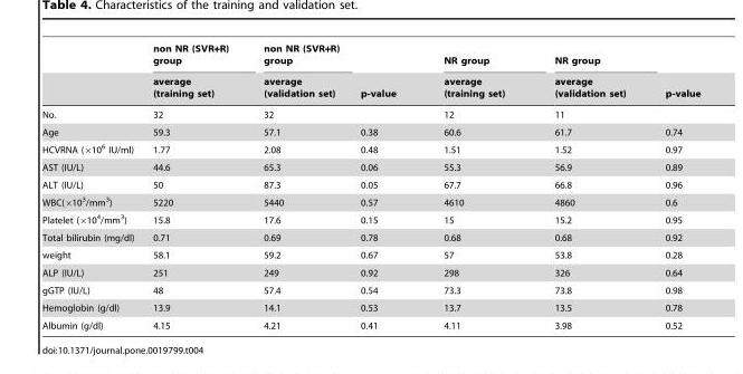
<table><thead><tr><td rowspan="2"></td><td rowspan="2">non NR (SVR+R) group average (training set)</td><td rowspan="2">non NR (SVR+R) group average (validation set)</td><td rowspan="2">p-value</td><td rowspan="2">NR group average (training set)</td><td rowspan="2">NR group average (validation set)</td><td rowspan="2">p-value</td></tr><tr></tr></thead><tbody><tr><td>No.</td><td>32</td><td>32</td><td></td><td>12</td><td>11</td><td></td></tr><tr><td>Age</td><td>59.3</td><td>57.1</td><td>0.38</td><td>60.6</td><td>61.7</td><td>0.74</td></tr><tr><td>HCVRNA (×10<sup>6</sup> IU/ml)</td><td>1.77</td><td>2.08</td><td>0.48</td><td>1.51</td><td>1.52</td><td>0.97</td></tr><tr><td>AST (IU/L)</td><td>44.6</td><td>65.3</td><td>0.06</td><td>55.3</td><td>56.9</td><td>0.89</td></tr><tr><td>ALT (IU/L)</td><td>50</td><td>87.3</td><td>0.05</td><td>67.7</td><td>66.8</td><td>0.96</td></tr><tr><td>WBC(×10<sup>3</sup>/mm<sup>3</sup>)</td><td>5220</td><td>5440</td><td>0.57</td><td>4610</td><td>4860</td><td>0.6</td></tr><tr><td>Platelet (×10<sup>4</sup>/mm<sup>3</sup>)</td><td>15.8</td><td>17.6</td><td>0.15</td><td>15</td><td>15.2</td><td>0.95</td></tr><tr><td>Total bilirubin (mg/dl)</td><td>0.71</td><td>0.69</td><td>0.78</td><td>0.68</td><td>0.68</td><td>0.92</td></tr><tr><td>weight</td><td>58.1</td><td>59.2</td><td>0.67</td><td>57</td><td>53.8</td><td>0.28</td></tr><tr><td>ALP (IU/L)</td><td>251</td><td>249</td><td>0.92</td><td>298</td><td>326</td><td>0.64</td></tr><tr><td>gGTP (IU/L)</td><td>48</td><td>57.4</td><td>0.54</td><td>73.3</td><td>73.8</td><td>0.98</td></tr><tr><td>Hemoglobin (g/dl)</td><td>13.9</td><td>14.1</td><td>0.53</td><td>13.7</td><td>13.5</td><td>0.78</td></tr><tr><td>Albumin (g/dl)</td><td>4.15</td><td>4.21</td><td>0.41</td><td>4.11</td><td>3.98</td><td>0.52</td></tr></tbody></table>